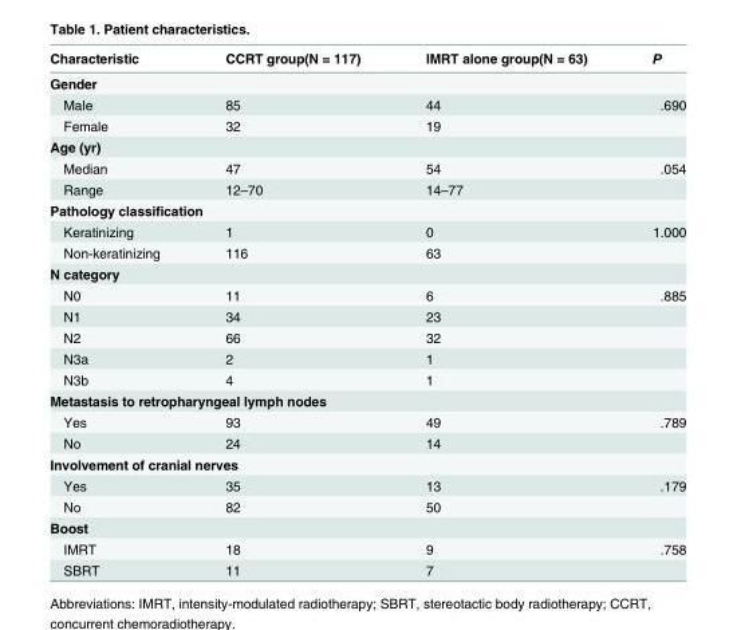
<table><thead><tr><td>Characteristic</td><td>CCRT group(N = 117)</td><td>IMRT alone group(N = 63)</td><td>P</td></tr></thead><tbody><tr><td colspan="4">Gender</td></tr><tr><td>Male</td><td>85</td><td>44</td><td>.690</td></tr><tr><td>Female</td><td>32</td><td>19</td><td></td></tr><tr><td colspan="4">Age (yr)</td></tr><tr><td>Median</td><td>47</td><td>54</td><td>.054</td></tr><tr><td>Range</td><td>12–70</td><td>14–77</td><td></td></tr><tr><td colspan="4">Pathology classification</td></tr><tr><td>Keratinizing</td><td>1</td><td>0</td><td>1.000</td></tr><tr><td>Non-keratinizing</td><td>116</td><td>63</td><td></td></tr><tr><td colspan="4">N category</td></tr><tr><td>N0</td><td>11</td><td>6</td><td>.885</td></tr><tr><td>N1</td><td>34</td><td>23</td><td></td></tr><tr><td>N2</td><td>66</td><td>32</td><td></td></tr><tr><td>N3a</td><td>2</td><td>1</td><td></td></tr><tr><td>N3b</td><td>4</td><td>1</td><td></td></tr><tr><td colspan="4">Metastasis to retropharyngeal lymph nodes</td></tr><tr><td>Yes</td><td>93</td><td>49</td><td>.789</td></tr><tr><td>No</td><td>24</td><td>14</td><td></td></tr><tr><td colspan="4">Involvement of cranial nerves</td></tr><tr><td>Yes</td><td>35</td><td>13</td><td>.179</td></tr><tr><td>No</td><td>82</td><td>50</td><td></td></tr><tr><td colspan="4">Boost</td></tr><tr><td>IMRT</td><td>18</td><td>9</td><td>.758</td></tr><tr><td>SBRT</td><td>11</td><td>7</td><td></td></tr></tbody></table>